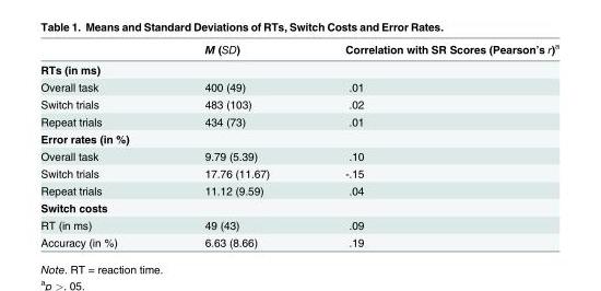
<table><thead><tr><td></td><td>M (SD)</td><td>Correlation with SR Scores (Pearson’s r)a</td></tr></thead><tbody><tr><td colspan="3">RTs (in ms)</td></tr><tr><td>Overall task</td><td>400 (49)</td><td>.01</td></tr><tr><td>Switch trials</td><td>483 (103)</td><td>.02</td></tr><tr><td>Repeat trials</td><td>434 (73)</td><td>.01</td></tr><tr><td colspan="3">Error rates (in %)</td></tr><tr><td>Overall task</td><td>9.79 (5.39)</td><td>.10</td></tr><tr><td>Switch trials</td><td>17.76 (11.67)</td><td>-.15</td></tr><tr><td>Repeat trials</td><td>11.12 (9.59)</td><td>.04</td></tr><tr><td colspan="3">Switch costs</td></tr><tr><td>RT (in ms)</td><td>49 (43)</td><td>.09</td></tr><tr><td>Accuracy (in %)</td><td>6.63 (8.66)</td><td>.19</td></tr></tbody></table>